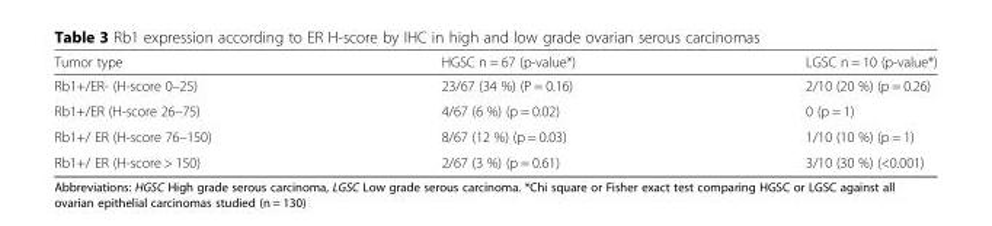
<table><thead><tr><td>Tumor type</td><td>HGSC n = 67 (p-value*)</td><td>LGSC n = 10 (p-value*)</td></tr></thead><tbody><tr><td>Rb1+/ER- (H-score 0–25)</td><td>23/67 (34 %) (P = 0.16)</td><td>2/10 (20 %) (p = 0.26)</td></tr><tr><td>Rb1+/ER (H-score 26–75)</td><td>4/67 (6 %) (p = 0.02)</td><td>0 (p = 1)</td></tr><tr><td>Rb1+/ ER (H-score 76–150)</td><td>8/67 (12 %) (p = 0.03)</td><td>1/10 (10 %) (p = 1)</td></tr><tr><td>Rb1+/ ER (H-score &gt; 150)</td><td>2/67 (3 %) (p = 0.61)</td><td>3/10 (30 %) (&lt;0.001)</td></tr></tbody></table>